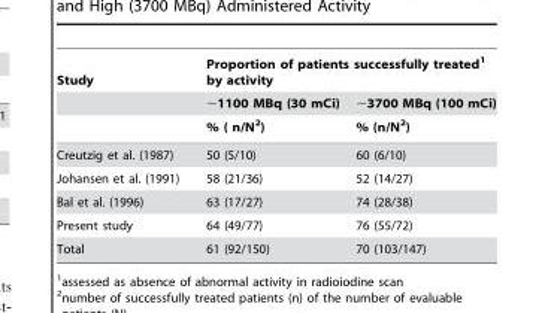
<table><thead><tr><td rowspan="3">Study</td><td colspan="2">Proportion of patients successfully treated<sup>1</sup> by activity</td></tr><tr><td rowspan="2">∼1100 MBq (30 mCi) % ( n/N<sup>2</sup>)</td><td rowspan="2">∼3700 MBq (100 mCi) % (n/N<sup>2</sup>)</td></tr><tr></tr></thead><tbody><tr><td>Creutzig et al. (1987)</td><td>50 (5/10)</td><td>60 (6/10)</td></tr><tr><td>Johansen et al. (1991)</td><td>58 (21/36)</td><td>52 (14/27)</td></tr><tr><td>Bal et al. (1996)</td><td>63 (17/27)</td><td>74 (28/38)</td></tr><tr><td>Present study</td><td>64 (49/77)</td><td>76 (55/72)</td></tr><tr><td>Total</td><td>61 (92/150)</td><td>70 (103/147)</td></tr></tbody></table>